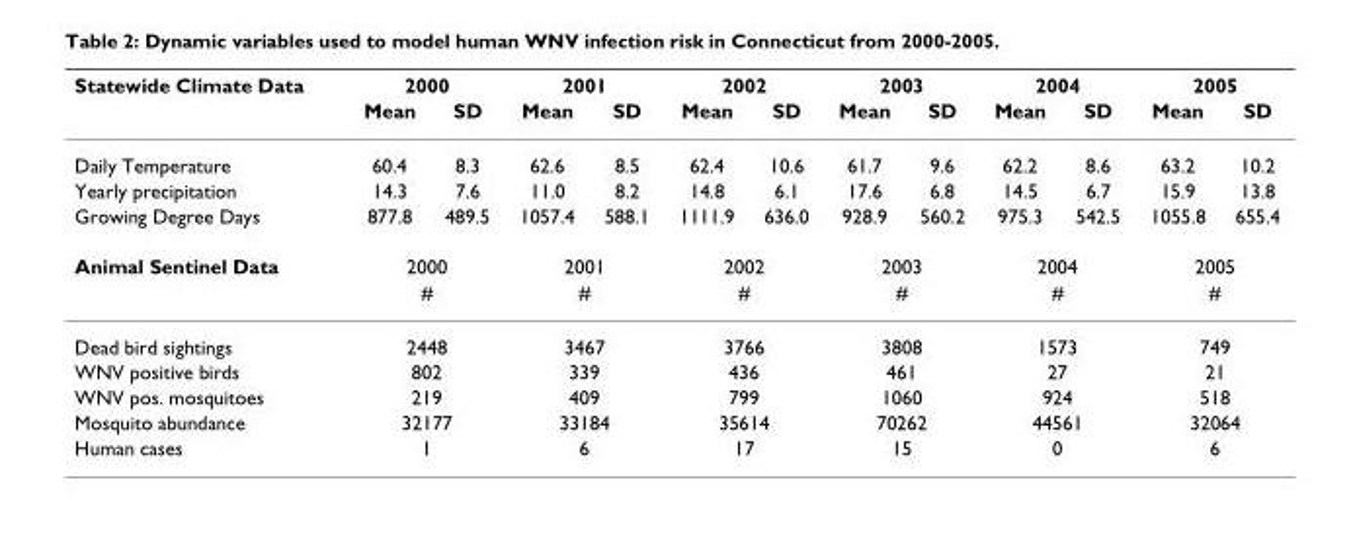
<table><thead><tr><td rowspan="2">Statewide Climate Data</td><td colspan="2">2000</td><td colspan="2">2001</td><td colspan="2">2002</td><td colspan="2">2003</td><td colspan="2">2004</td><td colspan="2">2005</td></tr><tr><td>Mean</td><td>SD</td><td>Mean</td><td>SD</td><td>Mean</td><td>SD</td><td>Mean</td><td>SD</td><td>Mean</td><td>SD</td><td>Mean</td><td>SD</td></tr></thead><tbody><tr><td>Daily Temperature</td><td>60.4</td><td>8.3</td><td>62.6</td><td>8.5</td><td>62.4</td><td>10.6</td><td>61.7</td><td>9.6</td><td>62.2</td><td>8.6</td><td>63.2</td><td>10.2</td></tr><tr><td>Yearly precipitation</td><td>14.3</td><td>7.6</td><td>11.0</td><td>8.2</td><td>14.8</td><td>6.1</td><td>17.6</td><td>6.8</td><td>14.5</td><td>6.7</td><td>15.9</td><td>13.8</td></tr><tr><td>Growing Degree Days</td><td>877.8</td><td>489.5</td><td>1057.4</td><td>588.1</td><td>1111.9</td><td>636.0</td><td>928.9</td><td>560.2</td><td>975.3</td><td>542.5</td><td>1055.8</td><td>655.4</td></tr><tr><td rowspan="2">Animal Sentinel Data</td><td colspan="2">2000</td><td colspan="2">2001</td><td colspan="2">2002</td><td colspan="2">2003</td><td colspan="2">2004</td><td colspan="2">2005</td></tr><tr><td colspan="2">#</td><td colspan="2">#</td><td colspan="2">#</td><td colspan="2">#</td><td colspan="2">#</td><td colspan="2">#</td></tr><tr><td>Dead bird sightings</td><td colspan="2">2448</td><td colspan="2">3467</td><td colspan="2">3766</td><td colspan="2">3808</td><td colspan="2">1573</td><td colspan="2">749</td></tr><tr><td>WNV positive birds</td><td colspan="2">802</td><td colspan="2">339</td><td colspan="2">436</td><td colspan="2">461</td><td colspan="2">27</td><td colspan="2">21</td></tr><tr><td>WNV pos. mosquitoes</td><td colspan="2">219</td><td colspan="2">409</td><td colspan="2">799</td><td colspan="2">1060</td><td colspan="2">924</td><td colspan="2">518</td></tr><tr><td>Mosquito abundance</td><td colspan="2">32177</td><td colspan="2">33184</td><td colspan="2">35614</td><td colspan="2">70262</td><td colspan="2">44561</td><td colspan="2">32064</td></tr><tr><td>Human cases</td><td colspan="2">1</td><td colspan="2">6</td><td colspan="2">17</td><td colspan="2">15</td><td colspan="2">0</td><td colspan="2">6</td></tr></tbody></table>